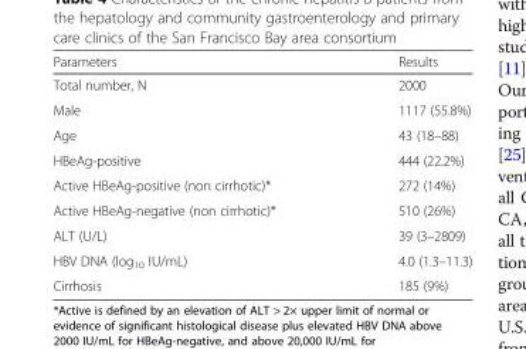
<table><thead><tr><td>Parameters</td><td>Results</td></tr></thead><tbody><tr><td>Total number, N</td><td>2000</td></tr><tr><td>Male</td><td>1117 (55.8%)</td></tr><tr><td>Age</td><td>43 (18–88)</td></tr><tr><td>HBeAg-positive</td><td>444 (22.2%)</td></tr><tr><td>Active HBeAg-positive (non cirrhotic)*</td><td>272 (14%)</td></tr><tr><td>Active HBeAg-negative (non cirrhotic)*</td><td>510 (26%)</td></tr><tr><td>ALT (U/L)</td><td>39 (3–2809)</td></tr><tr><td>HBV DNA (log<sub>10</sub> IU/mL)</td><td>4.0 (1.3–11.3)</td></tr><tr><td>Cirrhosis</td><td>185 (9%)</td></tr></tbody></table>